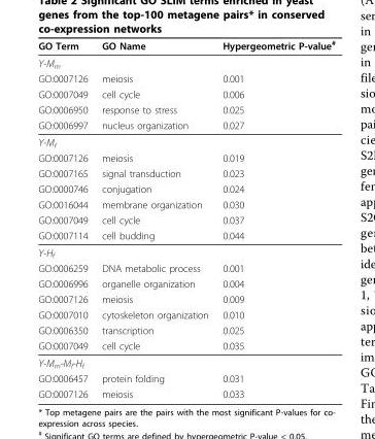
<table><thead><tr><td>GO Term</td><td>GO Name</td><td>Hypergeometric P-value<sup>#</sup></td></tr></thead><tbody><tr><td colspan="3">Y-M<sub>m</sub></td></tr><tr><td>GO:0007126</td><td>meiosis</td><td>0.001</td></tr><tr><td>GO:0007049</td><td>cell cycle</td><td>0.006</td></tr><tr><td>GO:0006950</td><td>response to stress</td><td>0.025</td></tr><tr><td>GO:0006997</td><td>nucleus organization</td><td>0.027</td></tr><tr><td colspan="3">Y-M<sub>f</sub></td></tr><tr><td>GO:0007126</td><td>meiosis</td><td>0.019</td></tr><tr><td>GO:0007165</td><td>signal transduction</td><td>0.023</td></tr><tr><td>GO:0000746</td><td>conjugation</td><td>0.024</td></tr><tr><td>GO:0016044</td><td>membrane organization</td><td>0.030</td></tr><tr><td>GO:0007049</td><td>cell cycle</td><td>0.037</td></tr><tr><td>GO:0007114</td><td>cell budding</td><td>0.044</td></tr><tr><td colspan="3">Y-H<sub>f</sub></td></tr><tr><td>GO:0006259</td><td>DNA metabolic process</td><td>0.001</td></tr><tr><td>GO:0006996</td><td>organelle organization</td><td>0.004</td></tr><tr><td>GO:0007126</td><td>meiosis</td><td>0.009</td></tr><tr><td>GO:0007010</td><td>cytoskeleton organization</td><td>0.010</td></tr><tr><td>GO:0006350</td><td>transcription</td><td>0.025</td></tr><tr><td>GO:0007049</td><td>cell cycle</td><td>0.035</td></tr><tr><td colspan="3">Y-M<sub>m</sub>-M<sub>f</sub>-H<sub>f</sub></td></tr><tr><td>GO:0006457</td><td>protein folding</td><td>0.031</td></tr><tr><td>GO:0007126</td><td>meiosis</td><td>0.033</td></tr></tbody></table>